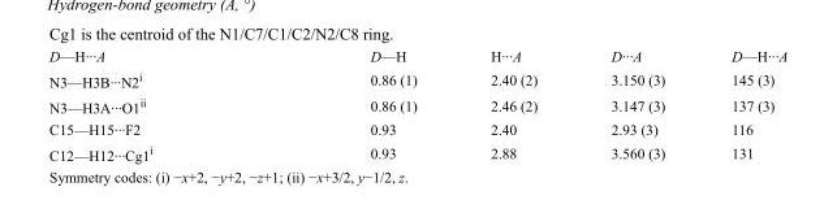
<table><tbody><tr><td>D—H···A</td><td>D—H</td><td>H···A</td><td>D···A</td><td>D—H···A</td></tr><tr><td>N3—H3B···N2<sup>i</sup></td><td>0.86 (1)</td><td>2.40 (2)</td><td>3.150 (3)</td><td>145 (3)</td></tr><tr><td>N3—H3A···O1<sup>ii</sup></td><td>0.86 (1)</td><td>2.46 (2)</td><td>3.147 (3)</td><td>137 (3)</td></tr><tr><td>C15—H15···F2</td><td>0.93</td><td>2.40</td><td>2.93 (3)</td><td>116</td></tr><tr><td>C12—H12···Cg1<sup>i</sup></td><td>0.93</td><td>2.88</td><td>3.560 (3)</td><td>131</td></tr></tbody></table>